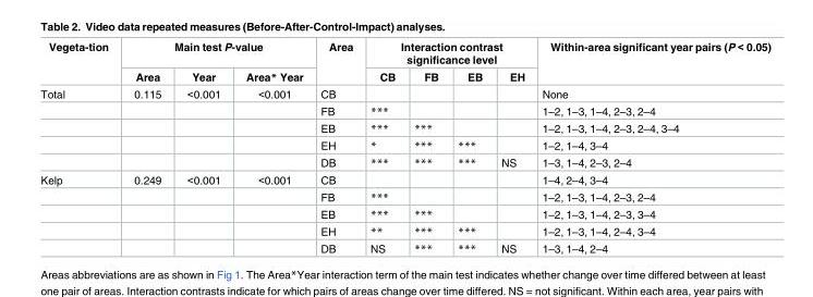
<table><thead><tr><td rowspan="2">Vegeta-tion</td><td colspan="3">Main test P-value</td><td rowspan="2">Area</td><td colspan="4">Interaction contrast significance level</td><td rowspan="2">Within-area significant year pairs (P &lt; 0.05)</td></tr><tr><td>Area</td><td>Year</td><td>Area* Year</td><td>CB</td><td>FB</td><td>EB</td><td>EH</td></tr></thead><tbody><tr><td rowspan="5">Total</td><td>0.115</td><td>&lt;0.001</td><td>&lt;0.001</td><td>CB</td><td></td><td></td><td></td><td></td><td>None</td></tr><tr><td></td><td></td><td></td><td>FB</td><td>***</td><td></td><td></td><td></td><td>1–2, 1–3, 1–4, 2–3, 2–4</td></tr><tr><td></td><td></td><td></td><td>EB</td><td>***</td><td>***</td><td></td><td></td><td>1–2, 1–3, 1–4, 2–3, 2–4, 3–4</td></tr><tr><td></td><td></td><td></td><td>EH</td><td>*</td><td>***</td><td>***</td><td></td><td>1–2, 1–4, 3–4</td></tr><tr><td></td><td></td><td></td><td>DB</td><td>***</td><td>***</td><td>***</td><td>NS</td><td>1–3, 1–4, 2–3, 2–4</td></tr><tr><td rowspan="5">Kelp</td><td>0.249</td><td>&lt;0.001</td><td>&lt;0.001</td><td>CB</td><td></td><td></td><td></td><td></td><td>1–4, 2–4, 3–4</td></tr><tr><td></td><td></td><td></td><td>FB</td><td>***</td><td></td><td></td><td></td><td>1–2, 1–3, 1–4, 2–3, 2–4</td></tr><tr><td></td><td></td><td></td><td>EB</td><td>***</td><td>***</td><td></td><td></td><td>1–2, 1–3, 1–4, 2–3, 3–4</td></tr><tr><td></td><td></td><td></td><td>EH</td><td>**</td><td>***</td><td>***</td><td></td><td>1–2, 1–3, 1–4, 2–4, 3–4</td></tr><tr><td></td><td></td><td></td><td>DB</td><td>NS</td><td>***</td><td>***</td><td>NS</td><td>1–3, 1–4, 2–4</td></tr></tbody></table>